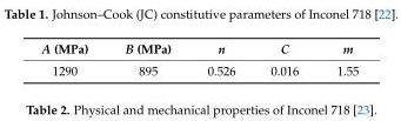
<table><thead><tr><td>A (MPa)</td><td>B (MPa)</td><td>n</td><td>C</td><td>m</td></tr></thead><tbody><tr><td>1290</td><td>895</td><td>0.526</td><td>0.016</td><td>1.55</td></tr></tbody></table>